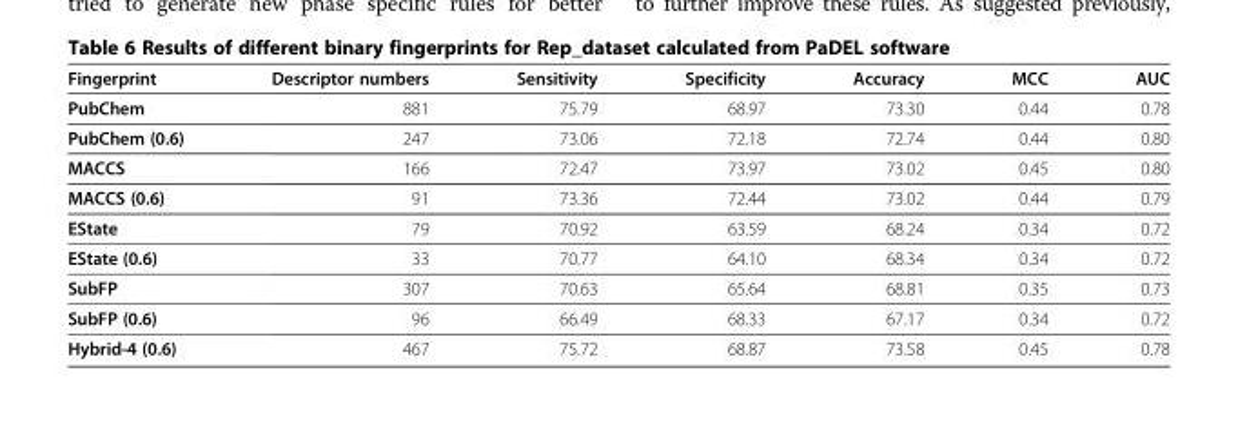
<table><thead><tr><td>Fingerprint</td><td>Descriptor numbers</td><td>Sensitivity</td><td>Specificity</td><td>Accuracy</td><td>MCC</td><td>AUC</td></tr></thead><tbody><tr><td>PubChem</td><td>881</td><td>75.79</td><td>68.97</td><td>73.30</td><td>0.44</td><td>0.78</td></tr><tr><td>PubChem (0.6)</td><td>247</td><td>73.06</td><td>72.18</td><td>72.74</td><td>0.44</td><td>0.80</td></tr><tr><td>MACCS</td><td>166</td><td>72.47</td><td>73.97</td><td>73.02</td><td>0.45</td><td>0.80</td></tr><tr><td>MACCS (0.6)</td><td>91</td><td>73.36</td><td>72.44</td><td>73.02</td><td>0.44</td><td>0.79</td></tr><tr><td>EState</td><td>79</td><td>70.92</td><td>63.59</td><td>68.24</td><td>0.34</td><td>0.72</td></tr><tr><td>EState (0.6)</td><td>33</td><td>70.77</td><td>64.10</td><td>68.34</td><td>0.34</td><td>0.72</td></tr><tr><td>SubFP</td><td>307</td><td>70.63</td><td>65.64</td><td>68.81</td><td>0.35</td><td>0.73</td></tr><tr><td>SubFP (0.6)</td><td>96</td><td>66.49</td><td>68.33</td><td>67.17</td><td>0.34</td><td>0.72</td></tr><tr><td>Hybrid-4 (0.6)</td><td>467</td><td>75.72</td><td>68.87</td><td>73.58</td><td>0.45</td><td>0.78</td></tr></tbody></table>